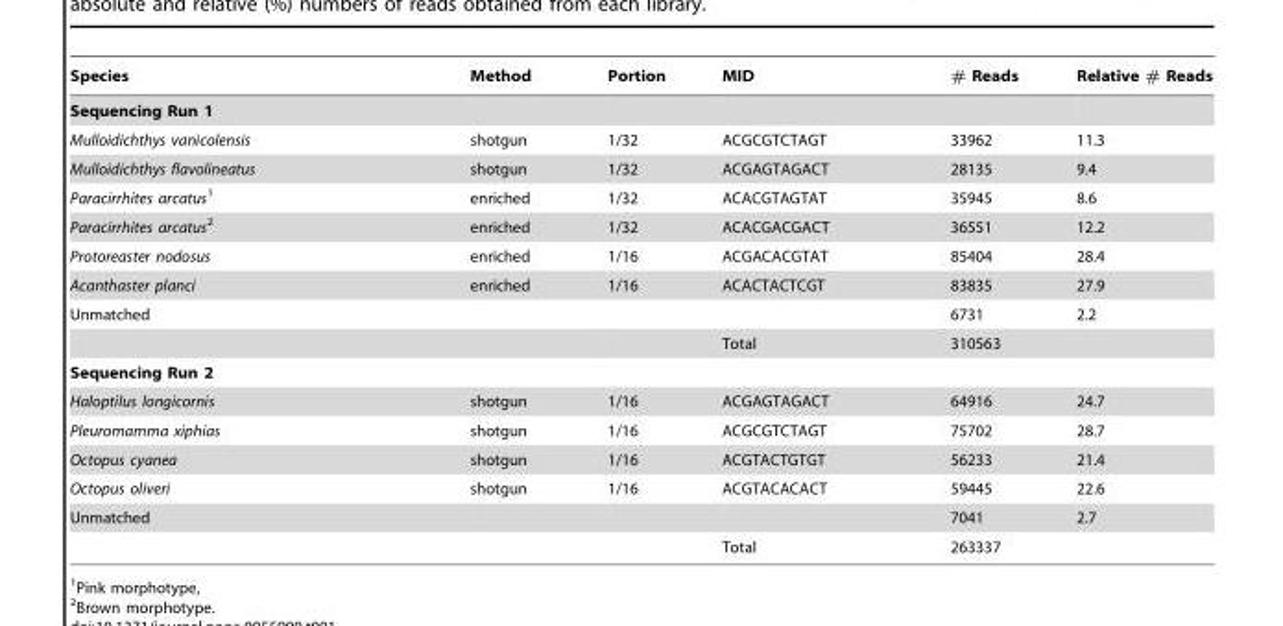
<table><thead><tr><td>Species</td><td>Method</td><td>Portion</td><td>MID</td><td># Reads</td><td>Relative # Reads</td></tr></thead><tbody><tr><td colspan="6">Sequencing Run 1</td></tr><tr><td>Mulloidichthys vanicolensis</td><td>shotgun</td><td>1/32</td><td>ACGCGTCTAGT</td><td>33962</td><td>11.3</td></tr><tr><td>Mulloidichthys flavolineatus</td><td>shotgun</td><td>1/32</td><td>ACGAGTAGACT</td><td>28135</td><td>9.4</td></tr><tr><td>Paracirrhites arcatus1</td><td>enriched</td><td>1/32</td><td>ACACGTAGTAT</td><td>35945</td><td>8.6</td></tr><tr><td>Paracirrhites arcatus2</td><td>enriched</td><td>1/32</td><td>ACACGACGACT</td><td>36551</td><td>12.2</td></tr><tr><td>Protoreaster nodosus</td><td>enriched</td><td>1/16</td><td>ACGACACGTAT</td><td>85404</td><td>28.4</td></tr><tr><td>Acanthaster planci</td><td>enriched</td><td>1/16</td><td>ACACTACTCGT</td><td>83835</td><td>27.9</td></tr><tr><td rowspan="2">Unmatched</td><td></td><td></td><td></td><td>6731</td><td>2.2</td></tr><tr><td></td><td></td><td>Total</td><td>310563</td><td></td></tr><tr><td colspan="6">Sequencing Run 2</td></tr><tr><td>Haloptilus longicornis</td><td>shotgun</td><td>1/16</td><td>ACGAGTAGACT</td><td>64916</td><td>24.7</td></tr><tr><td>Pleuromamma xiphias</td><td>shotgun</td><td>1/16</td><td>ACGCGTCTAGT</td><td>75702</td><td>28.7</td></tr><tr><td>Octopus cyanea</td><td>shotgun</td><td>1/16</td><td>ACGTACTGTGT</td><td>56233</td><td>21.4</td></tr><tr><td>Octopus oliveri</td><td>shotgun</td><td>1/16</td><td>ACGTACACACT</td><td>59445</td><td>22.6</td></tr><tr><td rowspan="2">Unmatched</td><td></td><td></td><td></td><td>7041</td><td>2.7</td></tr><tr><td></td><td></td><td>Total</td><td>263337</td><td></td></tr></tbody></table>